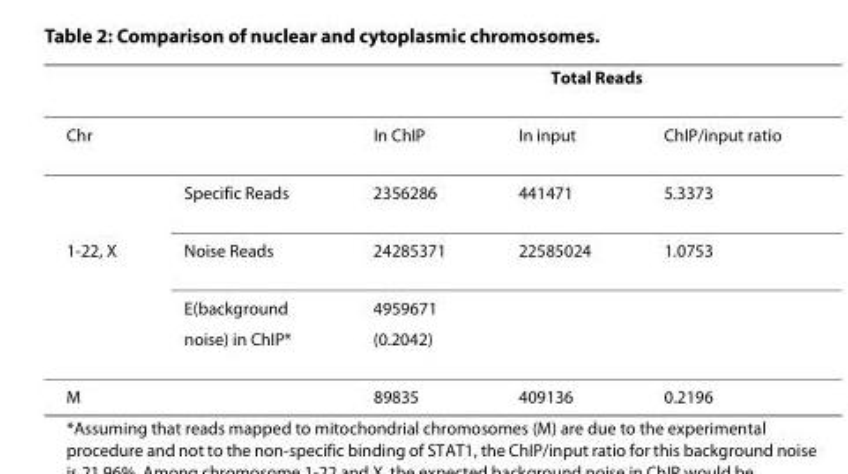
<table><thead><tr><td rowspan="2">Chr</td><td rowspan="2"></td><td colspan="3">Total Reads</td></tr><tr><td>In ChIP</td><td>In input</td><td>ChIP/input ratio</td></tr></thead><tbody><tr><td></td><td>Specific Reads</td><td>2356286</td><td>441471</td><td>5.3373</td></tr><tr><td rowspan="3">1-22, X</td><td>Noise Reads</td><td>24285371</td><td>22585024</td><td>1.0753</td></tr><tr><td>E(background</td><td>4959671</td><td></td><td></td></tr><tr><td>noise) in ChIP*</td><td>(0.2042)</td><td></td><td></td></tr><tr><td>M</td><td></td><td>89835</td><td>409136</td><td>0.2196</td></tr></tbody></table>